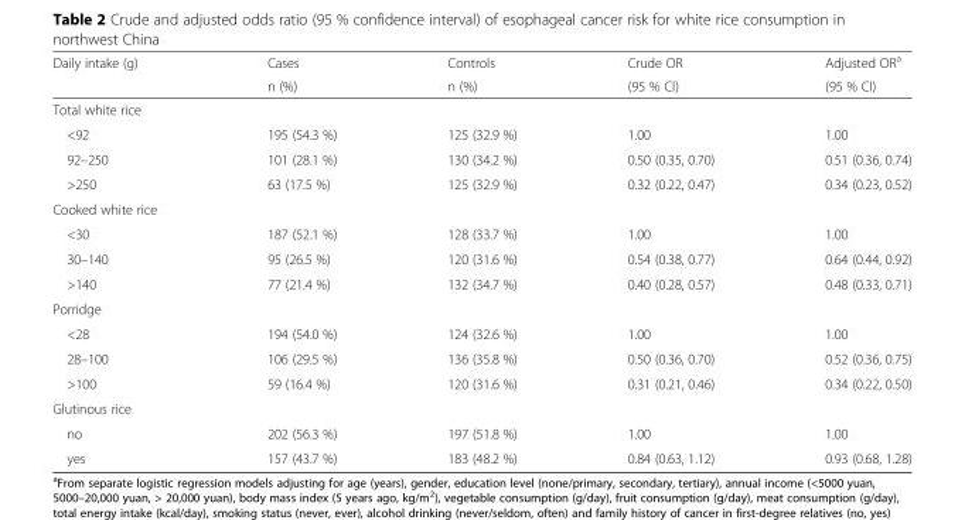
<table><thead><tr><td rowspan="2">Daily intake (g)</td><td rowspan="2">Cases n (%)</td><td rowspan="2">Controls n (%)</td><td rowspan="2">Crude OR (95 % CI)</td><td rowspan="2">Adjusted OR<sup>a</sup> (95 % CI)</td></tr><tr></tr></thead><tbody><tr><td colspan="5">Total white rice</td></tr><tr><td>&lt;92</td><td>195 (54.3 %)</td><td>125 (32.9 %)</td><td>1.00</td><td>1.00</td></tr><tr><td>92–250</td><td>101 (28.1 %)</td><td>130 (34.2 %)</td><td>0.50 (0.35, 0.70)</td><td>0.51 (0.36, 0.74)</td></tr><tr><td>&gt;250</td><td>63 (17.5 %)</td><td>125 (32.9 %)</td><td>0.32 (0.22, 0.47)</td><td>0.34 (0.23, 0.52)</td></tr><tr><td colspan="5">Cooked white rice</td></tr><tr><td>&lt;30</td><td>187 (52.1 %)</td><td>128 (33.7 %)</td><td>1.00</td><td>1.00</td></tr><tr><td>30–140</td><td>95 (26.5 %)</td><td>120 (31.6 %)</td><td>0.54 (0.38, 0.77)</td><td>0.64 (0.44, 0.92)</td></tr><tr><td>&gt;140</td><td>77 (21.4 %)</td><td>132 (34.7 %)</td><td>0.40 (0.28, 0.57)</td><td>0.48 (0.33, 0.71)</td></tr><tr><td colspan="5">Porridge</td></tr><tr><td>&lt;28</td><td>194 (54.0 %)</td><td>124 (32.6 %)</td><td>1.00</td><td>1.00</td></tr><tr><td>28–100</td><td>106 (29.5 %)</td><td>136 (35.8 %)</td><td>0.50 (0.36, 0.70)</td><td>0.52 (0.36, 0.75)</td></tr><tr><td>&gt;100</td><td>59 (16.4 %)</td><td>120 (31.6 %)</td><td>0.31 (0.21, 0.46)</td><td>0.34 (0.22, 0.50)</td></tr><tr><td colspan="5">Glutinous rice</td></tr><tr><td>no</td><td>202 (56.3 %)</td><td>197 (51.8 %)</td><td>1.00</td><td>1.00</td></tr><tr><td>yes</td><td>157 (43.7 %)</td><td>183 (48.2 %)</td><td>0.84 (0.63, 1.12)</td><td>0.93 (0.68, 1.28)</td></tr></tbody></table>